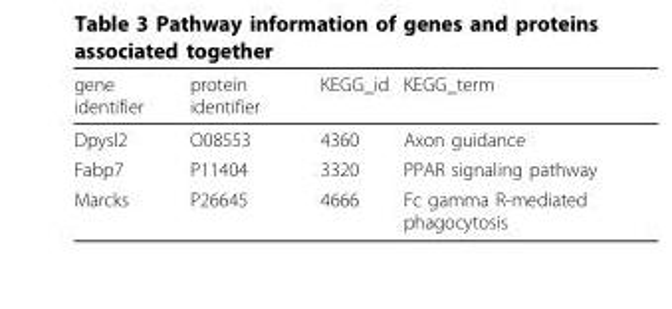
<table><thead><tr><td>gene identifier</td><td>protein identifier</td><td>KEGG_id</td><td>KEGG_term</td></tr></thead><tbody><tr><td>Dpysl2</td><td>O08553</td><td>4360</td><td>Axon guidance</td></tr><tr><td>Fabp7</td><td>P11404</td><td>3320</td><td>PPAR signaling pathway</td></tr><tr><td>Marcks</td><td>P26645</td><td>4666</td><td>Fc gamma R-mediated phagocytosis</td></tr></tbody></table>